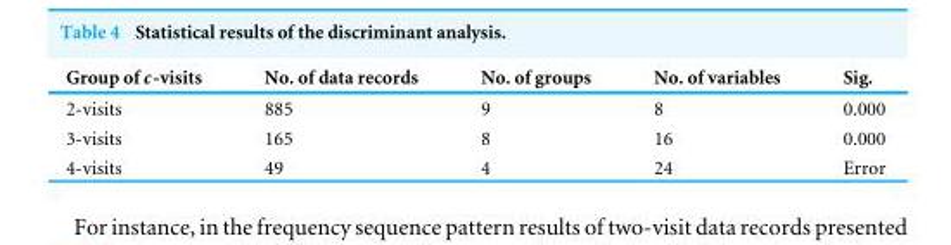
<table><thead><tr><td>Group of c-visits</td><td>No. of data records</td><td>No. of groups</td><td>No. of variables</td><td>Sig.</td></tr></thead><tbody><tr><td>2-visits</td><td>885</td><td>9</td><td>8</td><td>0.000</td></tr><tr><td>3-visits</td><td>165</td><td>8</td><td>16</td><td>0.000</td></tr><tr><td>4-visits</td><td>49</td><td>4</td><td>24</td><td>Error</td></tr></tbody></table>